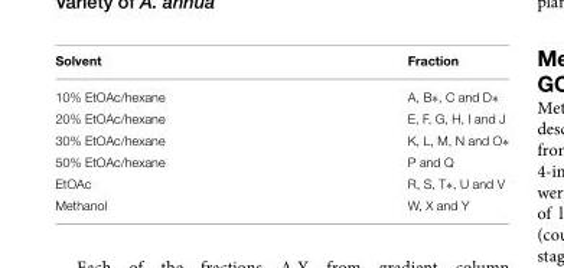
<table><thead><tr><td>Solvent</td><td>Fraction</td></tr></thead><tbody><tr><td>10% EtOAc/hexane</td><td>A, B∗, C and D∗</td></tr><tr><td>20% EtOAc/hexane</td><td>E, F, G, H, I and J</td></tr><tr><td>30% EtOAc/hexane</td><td>K, L, M, N and O∗</td></tr><tr><td>50% EtOAc/hexane</td><td>P and Q</td></tr><tr><td>EtOAc</td><td>R, S, T∗, U and V</td></tr><tr><td>Methanol</td><td>W, X and Y</td></tr></tbody></table>